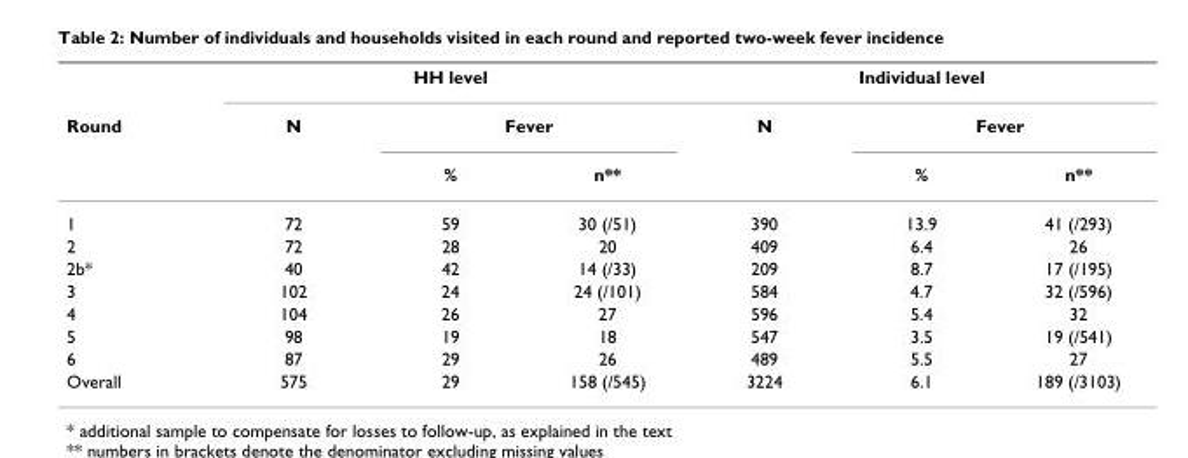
<table><thead><tr><td rowspan="3">Round</td><td colspan="3">HH level</td><td colspan="3">Individual level</td></tr><tr><td rowspan="2">N</td><td colspan="2">Fever</td><td rowspan="2">N</td><td colspan="2">Fever</td></tr><tr><td>%</td><td>n**</td><td>%</td><td>n**</td></tr></thead><tbody><tr><td>1</td><td>72</td><td>59</td><td>30 (/51)</td><td>390</td><td>13.9</td><td>41 (/293)</td></tr><tr><td>2</td><td>72</td><td>28</td><td>20</td><td>409</td><td>6.4</td><td>26</td></tr><tr><td>2b*</td><td>40</td><td>42</td><td>14 (/33)</td><td>209</td><td>8.7</td><td>17 (/195)</td></tr><tr><td>3</td><td>102</td><td>24</td><td>24 (/101)</td><td>584</td><td>4.7</td><td>32 (/596)</td></tr><tr><td>4</td><td>104</td><td>26</td><td>27</td><td>596</td><td>5.4</td><td>32</td></tr><tr><td>5</td><td>98</td><td>19</td><td>18</td><td>547</td><td>3.5</td><td>19 (/541)</td></tr><tr><td>6</td><td>87</td><td>29</td><td>26</td><td>489</td><td>5.5</td><td>27</td></tr><tr><td>Overall</td><td>575</td><td>29</td><td>158 (/545)</td><td>3224</td><td>6.1</td><td>189 (/3103)</td></tr></tbody></table>